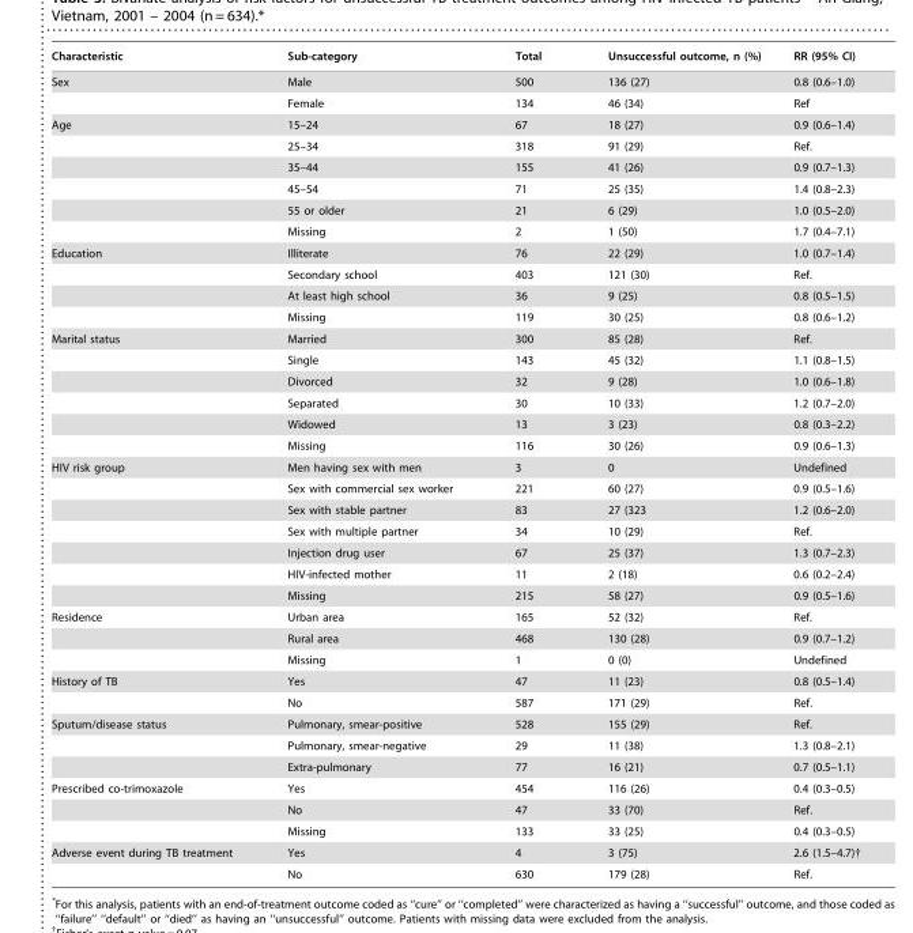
<table><thead><tr><td>Characteristic</td><td>Sub-category</td><td>Total</td><td>Unsuccessful outcome, n (%)</td><td>RR (95% CI)</td></tr></thead><tbody><tr><td rowspan="2">Sex</td><td>Male</td><td>500</td><td>136 (27)</td><td>0.8 (0.6–1.0)</td></tr><tr><td>Female</td><td>134</td><td>46 (34)</td><td>Ref</td></tr><tr><td rowspan="6">Age</td><td>15–24</td><td>67</td><td>18 (27)</td><td>0.9 (0.6–1.4)</td></tr><tr><td>25–34</td><td>318</td><td>91 (29)</td><td>Ref.</td></tr><tr><td>35–44</td><td>155</td><td>41 (26)</td><td>0.9 (0.7–1.3)</td></tr><tr><td>45–54</td><td>71</td><td>25 (35)</td><td>1.4 (0.8–2.3)</td></tr><tr><td>55 or older</td><td>21</td><td>6 (29)</td><td>1.0 (0.5–2.0)</td></tr><tr><td>Missing</td><td>2</td><td>1 (50)</td><td>1.7 (0.4–7.1)</td></tr><tr><td rowspan="4">Education</td><td>Illiterate</td><td>76</td><td>22 (29)</td><td>1.0 (0.7–1.4)</td></tr><tr><td>Secondary school</td><td>403</td><td>121 (30)</td><td>Ref.</td></tr><tr><td>At least high school</td><td>36</td><td>9 (25)</td><td>0.8 (0.5–1.5)</td></tr><tr><td>Missing</td><td>119</td><td>30 (25)</td><td>0.8 (0.6–1.2)</td></tr><tr><td rowspan="6">Marital status</td><td>Married</td><td>300</td><td>85 (28)</td><td>Ref.</td></tr><tr><td>Single</td><td>143</td><td>45 (32)</td><td>1.1 (0.8–1.5)</td></tr><tr><td>Divorced</td><td>32</td><td>9 (28)</td><td>1.0 (0.6–1.8)</td></tr><tr><td>Separated</td><td>30</td><td>10 (33)</td><td>1.2 (0.7–2.0)</td></tr><tr><td>Widowed</td><td>13</td><td>3 (23)</td><td>0.8 (0.3–2.2)</td></tr><tr><td>Missing</td><td>116</td><td>30 (26)</td><td>0.9 (0.6–1.3)</td></tr><tr><td rowspan="7">HIV risk group</td><td>Men having sex with men</td><td>3</td><td>0</td><td>Undefined</td></tr><tr><td>Sex with commercial sex worker</td><td>221</td><td>60 (27)</td><td>0.9 (0.5–1.6)</td></tr><tr><td>Sex with stable partner</td><td>83</td><td>27 (323</td><td>1.2 (0.6–2.0)</td></tr><tr><td>Sex with multiple partner</td><td>34</td><td>10 (29)</td><td>Ref.</td></tr><tr><td>Injection drug user</td><td>67</td><td>25 (37)</td><td>1.3 (0.7–2.3)</td></tr><tr><td>HIV-infected mother</td><td>11</td><td>2 (18)</td><td>0.6 (0.2–2.4)</td></tr><tr><td>Missing</td><td>215</td><td>58 (27)</td><td>0.9 (0.5–1.6)</td></tr><tr><td rowspan="3">Residence</td><td>Urban area</td><td>165</td><td>52 (32)</td><td>Ref.</td></tr><tr><td>Rural area</td><td>468</td><td>130 (28)</td><td>0.9 (0.7–1.2)</td></tr><tr><td>Missing</td><td>1</td><td>0 (0)</td><td>Undefined</td></tr><tr><td rowspan="2">History of TB</td><td>Yes</td><td>47</td><td>11 (23)</td><td>0.8 (0.5–1.4)</td></tr><tr><td>No</td><td>587</td><td>171 (29)</td><td>Ref.</td></tr><tr><td rowspan="3">Sputum/disease status</td><td>Pulmonary, smear-positive</td><td>528</td><td>155 (29)</td><td>Ref.</td></tr><tr><td>Pulmonary, smear-negative</td><td>29</td><td>11 (38)</td><td>1.3 (0.8–2.1)</td></tr><tr><td>Extra-pulmonary</td><td>77</td><td>16 (21)</td><td>0.7 (0.5–1.1)</td></tr><tr><td rowspan="3">Prescribed co-trimoxazole</td><td>Yes</td><td>454</td><td>116 (26)</td><td>0.4 (0.3–0.5)</td></tr><tr><td>No</td><td>47</td><td>33 (70)</td><td>Ref.</td></tr><tr><td>Missing</td><td>133</td><td>33 (25)</td><td>0.4 (0.3–0.5)</td></tr><tr><td rowspan="2">Adverse event during TB treatment</td><td>Yes</td><td>4</td><td>3 (75)</td><td>2.6 (1.5–4.7)†</td></tr><tr><td>No</td><td>630</td><td>179 (28)</td><td>Ref.</td></tr></tbody></table>